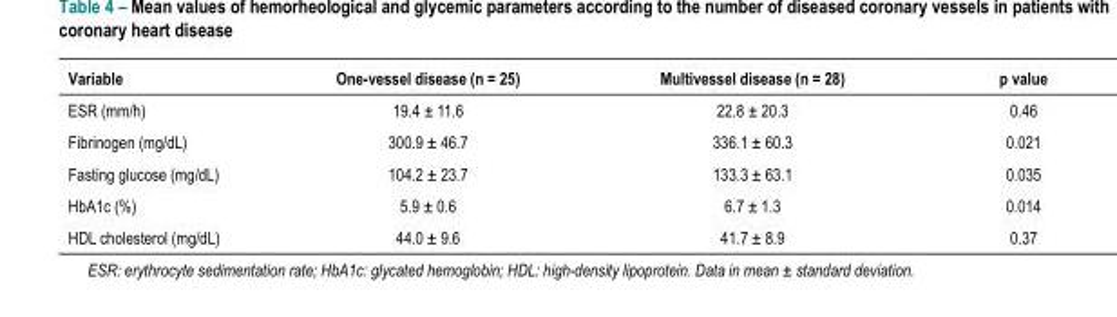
<table><thead><tr><td>Variable</td><td>One-vessel disease (n = 25)</td><td>Multivessel disease (n = 28)</td><td>p value</td></tr></thead><tbody><tr><td>ESR (mm/h)</td><td>19.4 ± 11.6</td><td>22.8 ± 20.3</td><td>0.46</td></tr><tr><td>Fibrinogen (mg/dL)</td><td>300.9 ± 46.7</td><td>336.1 ± 60.3</td><td>0.021</td></tr><tr><td>Fasting glucose (mg/dL)</td><td>104.2 ± 23.7</td><td>133.3 ± 63.1</td><td>0.035</td></tr><tr><td>HbA1c (%)</td><td>5.9 ± 0.6</td><td>6.7 ± 1.3</td><td>0.014</td></tr><tr><td>HDL cholesterol (mg/dL)</td><td>44.0 ± 9.6</td><td>41.7 ± 8.9</td><td>0.37</td></tr></tbody></table>